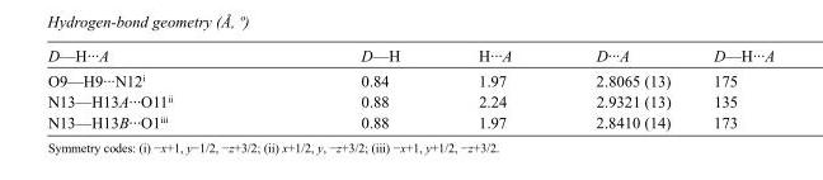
<table><tbody><tr><td>D—H···A</td><td>D—H</td><td>H···A</td><td>D···A</td><td>D—H···A</td></tr><tr><td>O9—H9···N12<sup>i</sup></td><td>0.84</td><td>1.97</td><td>2.8065 (13)</td><td>175</td></tr><tr><td>N13—H13A···O11<sup>ii</sup></td><td>0.88</td><td>2.24</td><td>2.9321 (13)</td><td>135</td></tr><tr><td>N13—H13B···O1<sup>iii</sup></td><td>0.88</td><td>1.97</td><td>2.8410 (14)</td><td>173</td></tr></tbody></table>